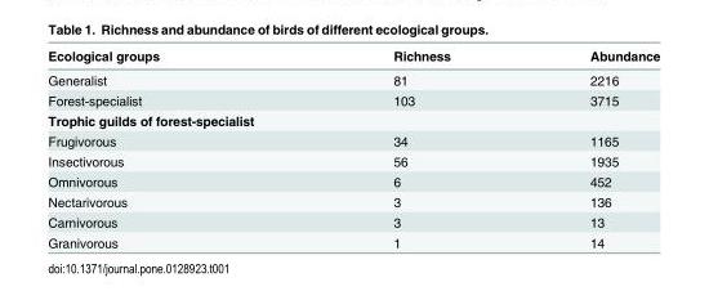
<table><thead><tr><td>Ecological groups</td><td>Richness</td><td>Abundance</td></tr></thead><tbody><tr><td>Generalist</td><td>81</td><td>2216</td></tr><tr><td>Forest-specialist</td><td>103</td><td>3715</td></tr><tr><td colspan="3">Trophic guilds of forest-specialist</td></tr><tr><td>Frugivorous</td><td>34</td><td>1165</td></tr><tr><td>Insectivorous</td><td>56</td><td>1935</td></tr><tr><td>Omnivorous</td><td>6</td><td>452</td></tr><tr><td>Nectarivorous</td><td>3</td><td>136</td></tr><tr><td>Carnivorous</td><td>3</td><td>13</td></tr><tr><td>Granivorous</td><td>1</td><td>14</td></tr></tbody></table>